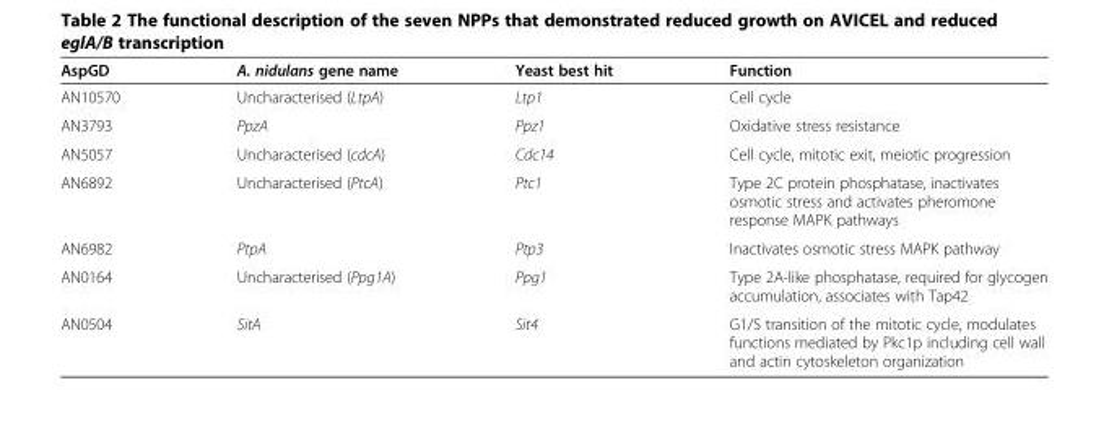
<table><thead><tr><td>AspGD</td><td>A. nidulans gene name</td><td>Yeast best hit</td><td>Function</td></tr></thead><tbody><tr><td>AN10570</td><td>Uncharacterised (LtpA)</td><td>Ltp1</td><td>Cell cycle</td></tr><tr><td>AN3793</td><td>PpzA</td><td>Ppz1</td><td>Oxidative stress resistance</td></tr><tr><td>AN5057</td><td>Uncharacterised (cdcA)</td><td>Cdc14</td><td>Cell cycle, mitotic exit, meiotic progression</td></tr><tr><td>AN6892</td><td>Uncharacterised (PtcA)</td><td>Ptc1</td><td>Type 2C protein phosphatase, inactivates osmotic stress and activates pheromone response MAPK pathways</td></tr><tr><td>AN6982</td><td>PtpA</td><td>Ptp3</td><td>Inactivates osmotic stress MAPK pathway</td></tr><tr><td>AN0164</td><td>Uncharacterised (Ppg1A)</td><td>Ppg1</td><td>Type 2A-like phosphatase, required for glycogen accumulation, associates with Tap42</td></tr><tr><td>AN0504</td><td>SitA</td><td>Sit4</td><td>G1/S transition of the mitotic cycle, modulates functions mediated by Pkc1p including cell wall and actin cytoskeleton organization</td></tr></tbody></table>